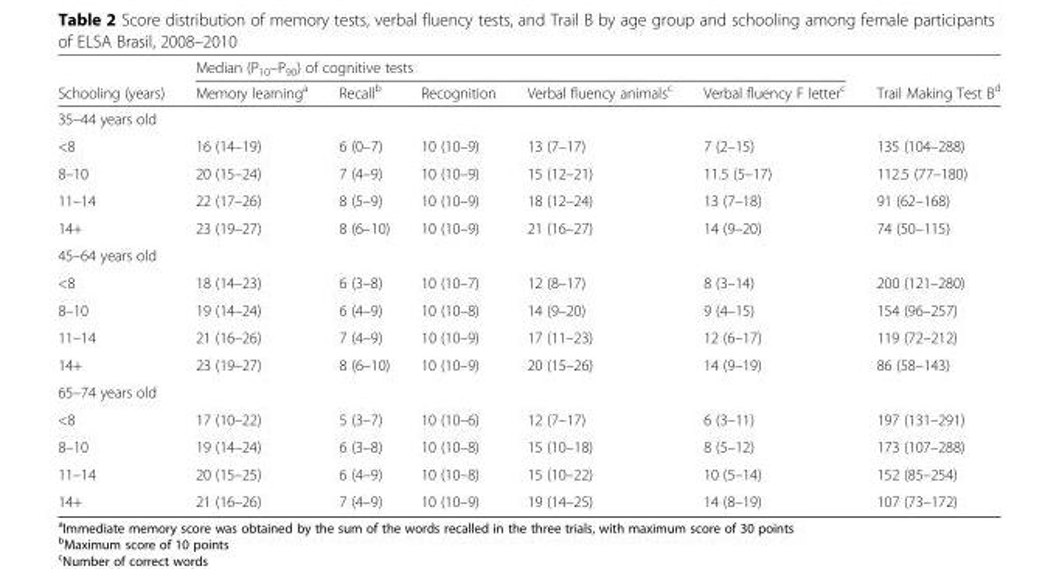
<table><thead><tr><td rowspan="2">Schooling (years)</td><td colspan="5">Median (P<sub>10</sub>–P<sub>90</sub>) of cognitive tests</td><td rowspan="2">Trail Making Test B<sup>d</sup></td></tr><tr><td>Memory learning<sup>a</sup></td><td>Recall<sup>b</sup></td><td>Recognition</td><td>Verbal fluency animals<sup>c</sup></td><td>Verbal fluency F letter<sup>c</sup></td></tr></thead><tbody><tr><td colspan="7">35–44 years old</td></tr><tr><td>&lt;8</td><td>16 (14–19)</td><td>6 (0–7)</td><td>10 (10–9)</td><td>13 (7–17)</td><td>7 (2–15)</td><td>135 (104–288)</td></tr><tr><td>8–10</td><td>20 (15–24)</td><td>7 (4–9)</td><td>10 (10–9)</td><td>15 (12–21)</td><td>11.5 (5–17)</td><td>112.5 (77–180)</td></tr><tr><td>11–14</td><td>22 (17–26)</td><td>8 (5–9)</td><td>10 (10–9)</td><td>18 (12–24)</td><td>13 (7–18)</td><td>91 (62–168)</td></tr><tr><td>14+</td><td>23 (19–27)</td><td>8 (6–10)</td><td>10 (10–9)</td><td>21 (16–27)</td><td>14 (9–20)</td><td>74 (50–115)</td></tr><tr><td colspan="7">45–64 years old</td></tr><tr><td>&lt;8</td><td>18 (14–23)</td><td>6 (3–8)</td><td>10 (10–7)</td><td>12 (8–17)</td><td>8 (3–14)</td><td>200 (121–280)</td></tr><tr><td>8–10</td><td>19 (14–24)</td><td>6 (4–9)</td><td>10 (10–8)</td><td>14 (9–20)</td><td>9 (4–15)</td><td>154 (96–257)</td></tr><tr><td>11–14</td><td>21 (16–26)</td><td>7 (4–9)</td><td>10 (10–9)</td><td>17 (11–23)</td><td>12 (6–17)</td><td>119 (72–212)</td></tr><tr><td>14+</td><td>23 (19–27)</td><td>8 (6–10)</td><td>10 (10–9)</td><td>20 (15–26)</td><td>14 (9–19)</td><td>86 (58–143)</td></tr><tr><td colspan="7">65–74 years old</td></tr><tr><td>&lt;8</td><td>17 (10–22)</td><td>5 (3–7)</td><td>10 (10–6)</td><td>12 (7–17)</td><td>6 (3–11)</td><td>197 (131–291)</td></tr><tr><td>8–10</td><td>19 (14–24)</td><td>6 (3–8)</td><td>10 (10–8)</td><td>15 (10–18)</td><td>8 (5–12)</td><td>173 (107–288)</td></tr><tr><td>11–14</td><td>20 (15–25)</td><td>6 (4–9)</td><td>10 (10–8)</td><td>15 (10–22)</td><td>10 (5–14)</td><td>152 (85–254)</td></tr><tr><td>14+</td><td>21 (16–26)</td><td>7 (4–9)</td><td>10 (10–9)</td><td>19 (14–25)</td><td>14 (8–19)</td><td>107 (73–172)</td></tr></tbody></table>